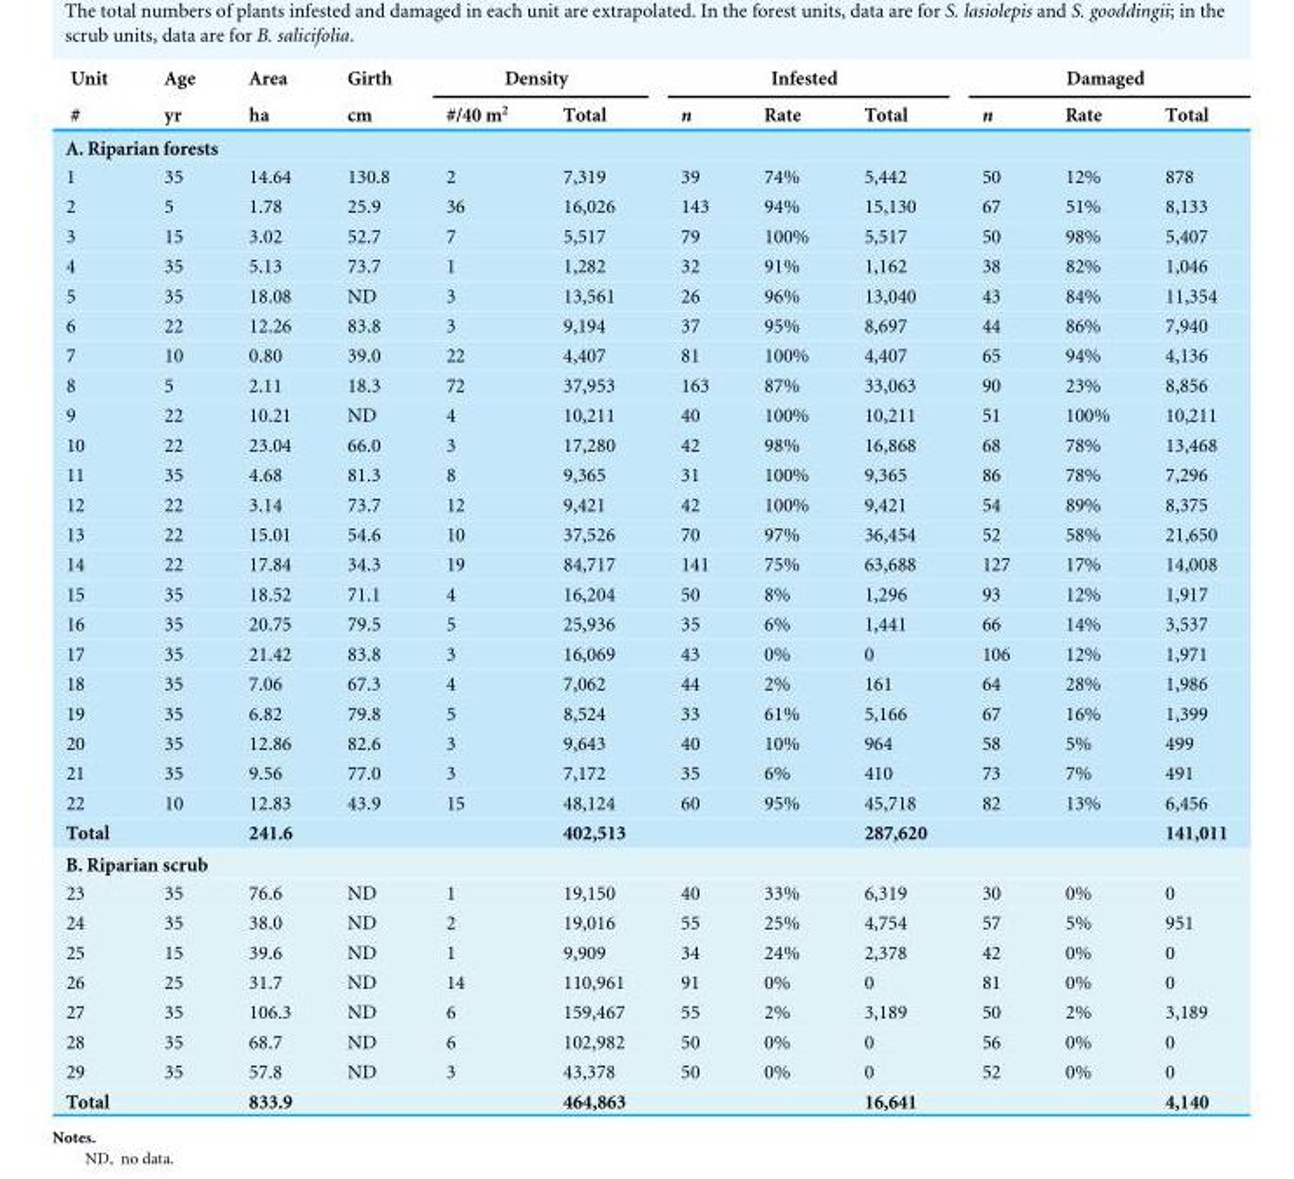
<table><thead><tr><td rowspan="2">Unit #</td><td rowspan="2">Age yr</td><td rowspan="2">Area ha</td><td rowspan="2">Girth cm</td><td colspan="2">Density</td><td colspan="3">Infested</td><td colspan="3">Damaged</td></tr><tr><td>#/40 m<sup>2</sup></td><td>Total</td><td>n</td><td>Rate</td><td>Total</td><td>n</td><td>Rate</td><td>Total</td></tr></thead><tbody><tr><td colspan="12">A. Riparian forests</td></tr><tr><td>1</td><td>35</td><td>14.64</td><td>130.8</td><td>2</td><td>7,319</td><td>39</td><td>74%</td><td>5,442</td><td>50</td><td>12%</td><td>878</td></tr><tr><td>2</td><td>5</td><td>1.78</td><td>25.9</td><td>36</td><td>16,026</td><td>143</td><td>94%</td><td>15,130</td><td>67</td><td>51%</td><td>8,133</td></tr><tr><td>3</td><td>15</td><td>3.02</td><td>52.7</td><td>7</td><td>5,517</td><td>79</td><td>100%</td><td>5,517</td><td>50</td><td>98%</td><td>5,407</td></tr><tr><td>4</td><td>35</td><td>5.13</td><td>73.7</td><td>1</td><td>1,282</td><td>32</td><td>91%</td><td>1,162</td><td>38</td><td>82%</td><td>1,046</td></tr><tr><td>5</td><td>35</td><td>18.08</td><td>ND</td><td>3</td><td>13,561</td><td>26</td><td>96%</td><td>13,040</td><td>43</td><td>84%</td><td>11,354</td></tr><tr><td>6</td><td>22</td><td>12.26</td><td>83.8</td><td>3</td><td>9,194</td><td>37</td><td>95%</td><td>8,697</td><td>44</td><td>86%</td><td>7,940</td></tr><tr><td>7</td><td>10</td><td>0.80</td><td>39.0</td><td>22</td><td>4,407</td><td>81</td><td>100%</td><td>4,407</td><td>65</td><td>94%</td><td>4,136</td></tr><tr><td>8</td><td>5</td><td>2.11</td><td>18.3</td><td>72</td><td>37,953</td><td>163</td><td>87%</td><td>33,063</td><td>90</td><td>23%</td><td>8,856</td></tr><tr><td>9</td><td>22</td><td>10.21</td><td>ND</td><td>4</td><td>10,211</td><td>40</td><td>100%</td><td>10,211</td><td>51</td><td>100%</td><td>10,211</td></tr><tr><td>10</td><td>22</td><td>23.04</td><td>66.0</td><td>3</td><td>17,280</td><td>42</td><td>98%</td><td>16,868</td><td>68</td><td>78%</td><td>13,468</td></tr><tr><td>11</td><td>35</td><td>4.68</td><td>81.3</td><td>8</td><td>9,365</td><td>31</td><td>100%</td><td>9,365</td><td>86</td><td>78%</td><td>7,296</td></tr><tr><td>12</td><td>22</td><td>3.14</td><td>73.7</td><td>12</td><td>9,421</td><td>42</td><td>100%</td><td>9,421</td><td>54</td><td>89%</td><td>8,375</td></tr><tr><td>13</td><td>22</td><td>15.01</td><td>54.6</td><td>10</td><td>37,526</td><td>70</td><td>97%</td><td>36,454</td><td>52</td><td>58%</td><td>21,650</td></tr><tr><td>14</td><td>22</td><td>17.84</td><td>34.3</td><td>19</td><td>84,717</td><td>141</td><td>75%</td><td>63,688</td><td>127</td><td>17%</td><td>14,008</td></tr><tr><td>15</td><td>35</td><td>18.52</td><td>71.1</td><td>4</td><td>16,204</td><td>50</td><td>8%</td><td>1,296</td><td>93</td><td>12%</td><td>1,917</td></tr><tr><td>16</td><td>35</td><td>20.75</td><td>79.5</td><td>5</td><td>25,936</td><td>35</td><td>6%</td><td>1,441</td><td>66</td><td>14%</td><td>3,537</td></tr><tr><td>17</td><td>35</td><td>21.42</td><td>83.8</td><td>3</td><td>16,069</td><td>43</td><td>0%</td><td>0</td><td>106</td><td>12%</td><td>1,971</td></tr><tr><td>18</td><td>35</td><td>7.06</td><td>67.3</td><td>4</td><td>7,062</td><td>44</td><td>2%</td><td>161</td><td>64</td><td>28%</td><td>1,986</td></tr><tr><td>19</td><td>35</td><td>6.82</td><td>79.8</td><td>5</td><td>8,524</td><td>33</td><td>61%</td><td>5,166</td><td>67</td><td>16%</td><td>1,399</td></tr><tr><td>20</td><td>35</td><td>12.86</td><td>82.6</td><td>3</td><td>9,643</td><td>40</td><td>10%</td><td>964</td><td>58</td><td>5%</td><td>499</td></tr><tr><td>21</td><td>35</td><td>9.56</td><td>77.0</td><td>3</td><td>7,172</td><td>35</td><td>6%</td><td>410</td><td>73</td><td>7%</td><td>491</td></tr><tr><td>22</td><td>10</td><td>12.83</td><td>43.9</td><td>15</td><td>48,124</td><td>60</td><td>95%</td><td>45,718</td><td>82</td><td>13%</td><td>6,456</td></tr><tr><td>Total</td><td></td><td>241.6</td><td></td><td></td><td>402,513</td><td></td><td></td><td>287,620</td><td></td><td></td><td>141,011</td></tr><tr><td colspan="12">B. Riparian scrub</td></tr><tr><td>23</td><td>35</td><td>76.6</td><td>ND</td><td>1</td><td>19,150</td><td>40</td><td>33%</td><td>6,319</td><td>30</td><td>0%</td><td>0</td></tr><tr><td>24</td><td>35</td><td>38.0</td><td>ND</td><td>2</td><td>19,016</td><td>55</td><td>25%</td><td>4,754</td><td>57</td><td>5%</td><td>951</td></tr><tr><td>25</td><td>15</td><td>39.6</td><td>ND</td><td>1</td><td>9,909</td><td>34</td><td>24%</td><td>2,378</td><td>42</td><td>0%</td><td>0</td></tr><tr><td>26</td><td>25</td><td>31.7</td><td>ND</td><td>14</td><td>110,961</td><td>91</td><td>0%</td><td>0</td><td>81</td><td>0%</td><td>0</td></tr><tr><td>27</td><td>35</td><td>106.3</td><td>ND</td><td>6</td><td>159,467</td><td>55</td><td>2%</td><td>3,189</td><td>50</td><td>2%</td><td>3,189</td></tr><tr><td>28</td><td>35</td><td>68.7</td><td>ND</td><td>6</td><td>102,982</td><td>50</td><td>0%</td><td>0</td><td>56</td><td>0%</td><td>0</td></tr><tr><td>29</td><td>35</td><td>57.8</td><td>ND</td><td>3</td><td>43,378</td><td>50</td><td>0%</td><td>0</td><td>52</td><td>0%</td><td>0</td></tr><tr><td>Total</td><td></td><td>833.9</td><td></td><td></td><td>464,863</td><td></td><td></td><td>16,641</td><td></td><td></td><td>4,140</td></tr></tbody></table>